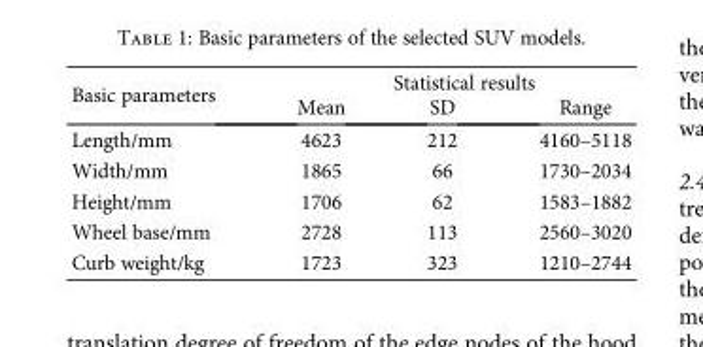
<table><thead><tr><td rowspan="2">Basic parameters</td><td colspan="3">Statistical results</td></tr><tr><td>Mean</td><td>SD</td><td>Range</td></tr></thead><tbody><tr><td>Length/mm</td><td>4623</td><td>212</td><td>4160–5118</td></tr><tr><td>Width/mm</td><td>1865</td><td>66</td><td>1730–2034</td></tr><tr><td>Height/mm</td><td>1706</td><td>62</td><td>1583–1882</td></tr><tr><td>Wheel base/mm</td><td>2728</td><td>113</td><td>2560–3020</td></tr><tr><td>Curb weight/kg</td><td>1723</td><td>323</td><td>1210–2744</td></tr></tbody></table>